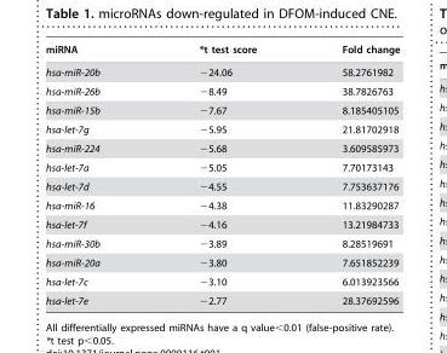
<table><thead><tr><td>miRNA</td><td>*t test score</td><td>Fold change</td></tr></thead><tbody><tr><td>hsa-miR-20b</td><td>−24.06</td><td>58.2761982</td></tr><tr><td>hsa-miR-26b</td><td>−8.49</td><td>38.7826763</td></tr><tr><td>hsa-miR-15b</td><td>−7.67</td><td>8.185405105</td></tr><tr><td>hsa-let-7g</td><td>−5.95</td><td>21.81702918</td></tr><tr><td>hsa-miR-224</td><td>−5.68</td><td>3.609585973</td></tr><tr><td>hsa-let-7a</td><td>−5.05</td><td>7.70173143</td></tr><tr><td>hsa-let-7d</td><td>−4.55</td><td>7.753637176</td></tr><tr><td>hsa-miR-16</td><td>−4.38</td><td>11.83290287</td></tr><tr><td>hsa-let-7f</td><td>−4.16</td><td>13.21984733</td></tr><tr><td>hsa-miR-30b</td><td>−3.89</td><td>8.28519691</td></tr><tr><td>hsa-miR-20a</td><td>−3.80</td><td>7.651852239</td></tr><tr><td>hsa-let-7c</td><td>−3.10</td><td>6.013923566</td></tr><tr><td>hsa-let-7e</td><td>−2.77</td><td>28.37692596</td></tr></tbody></table>